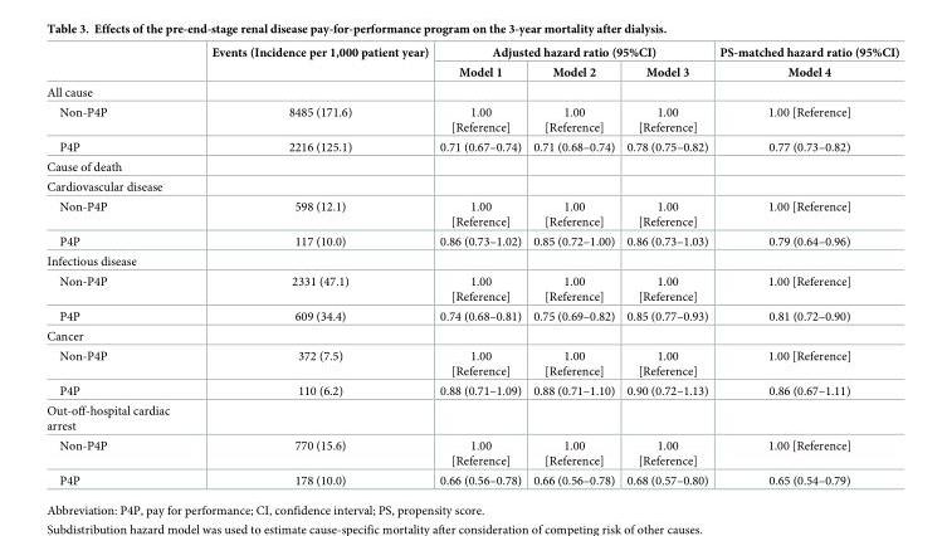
<table><thead><tr><td rowspan="2"></td><td rowspan="2">Events (Incidence per 1,000 patient year)</td><td colspan="3">Adjusted hazard ratio (95%CI)</td><td rowspan="2">PS-matched hazard ratio (95%CI) Model 4</td></tr><tr><td>Model 1</td><td>Model 2</td><td>Model 3</td></tr></thead><tbody><tr><td colspan="6">All cause</td></tr><tr><td>Non-P4P</td><td>8485 (171.6)</td><td>1.00 [Reference]</td><td>1.00 [Reference]</td><td>1.00 [Reference]</td><td>1.00 [Reference]</td></tr><tr><td>P4P</td><td>2216 (125.1)</td><td>0.71 (0.67–0.74)</td><td>0.71 (0.68–0.74)</td><td>0.78 (0.75–0.82)</td><td>0.77 (0.73–0.82)</td></tr><tr><td colspan="6">Cause of death</td></tr><tr><td colspan="6">Cardiovascular disease</td></tr><tr><td>Non-P4P</td><td>598 (12.1)</td><td>1.00 [Reference]</td><td>1.00 [Reference]</td><td>1.00 [Reference]</td><td>1.00 [Reference]</td></tr><tr><td>P4P</td><td>117 (10.0)</td><td>0.86 (0.73–1.02)</td><td>0.85 (0.72–1.00)</td><td>0.86 (0.73–1.03)</td><td>0.79 (0.64–0.96)</td></tr><tr><td colspan="6">Infectious disease</td></tr><tr><td>Non-P4P</td><td>2331 (47.1)</td><td>1.00 [Reference]</td><td>1.00 [Reference]</td><td>1.00 [Reference]</td><td>1.00 [Reference]</td></tr><tr><td>P4P</td><td>609 (34.4)</td><td>0.74 (0.68–0.81)</td><td>0.75 (0.69–0.82)</td><td>0.85 (0.77–0.93)</td><td>0.81 (0.72–0.90)</td></tr><tr><td colspan="6">Cancer</td></tr><tr><td>Non-P4P</td><td>372 (7.5)</td><td>1.00 [Reference]</td><td>1.00 [Reference]</td><td>1.00 [Reference]</td><td>1.00 [Reference]</td></tr><tr><td>P4P</td><td>110 (6.2)</td><td>0.88 (0.71–1.09)</td><td>0.88 (0.71–1.10)</td><td>0.90 (0.72–1.13)</td><td>0.86 (0.67–1.11)</td></tr><tr><td colspan="6">Out-off-hospital cardiac arrest</td></tr><tr><td>Non-P4P</td><td>770 (15.6)</td><td>1.00 [Reference]</td><td>1.00 [Reference]</td><td>1.00 [Reference]</td><td>1.00 [Reference]</td></tr><tr><td>P4P</td><td>178 (10.0)</td><td>0.66 (0.56–0.78)</td><td>0.66 (0.56–0.78)</td><td>0.68 (0.57–0.80)</td><td>0.65 (0.54–0.79)</td></tr></tbody></table>